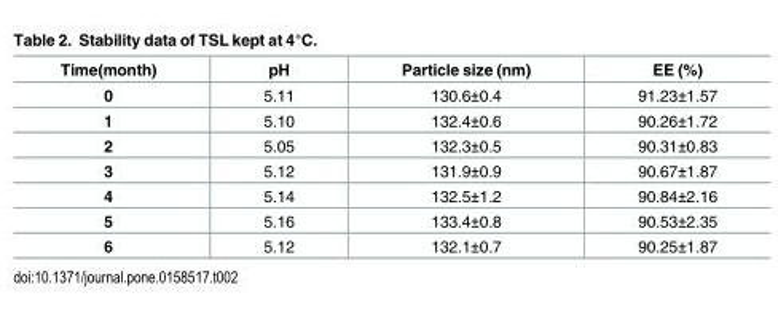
<table><thead><tr><td>Time(month)</td><td>pH</td><td>Particle size (nm)</td><td>EE (%)</td></tr></thead><tbody><tr><td>0</td><td>5.11</td><td>130.6±0.4</td><td>91.23±1.57</td></tr><tr><td>1</td><td>5.10</td><td>132.4±0.6</td><td>90.26±1.72</td></tr><tr><td>2</td><td>5.05</td><td>132.3±0.5</td><td>90.31±0.83</td></tr><tr><td>3</td><td>5.12</td><td>131.9±0.9</td><td>90.67±1.87</td></tr><tr><td>4</td><td>5.14</td><td>132.5±1.2</td><td>90.84±2.16</td></tr><tr><td>5</td><td>5.16</td><td>133.4±0.8</td><td>90.53±2.35</td></tr><tr><td>6</td><td>5.12</td><td>132.1±0.7</td><td>90.25±1.87</td></tr></tbody></table>